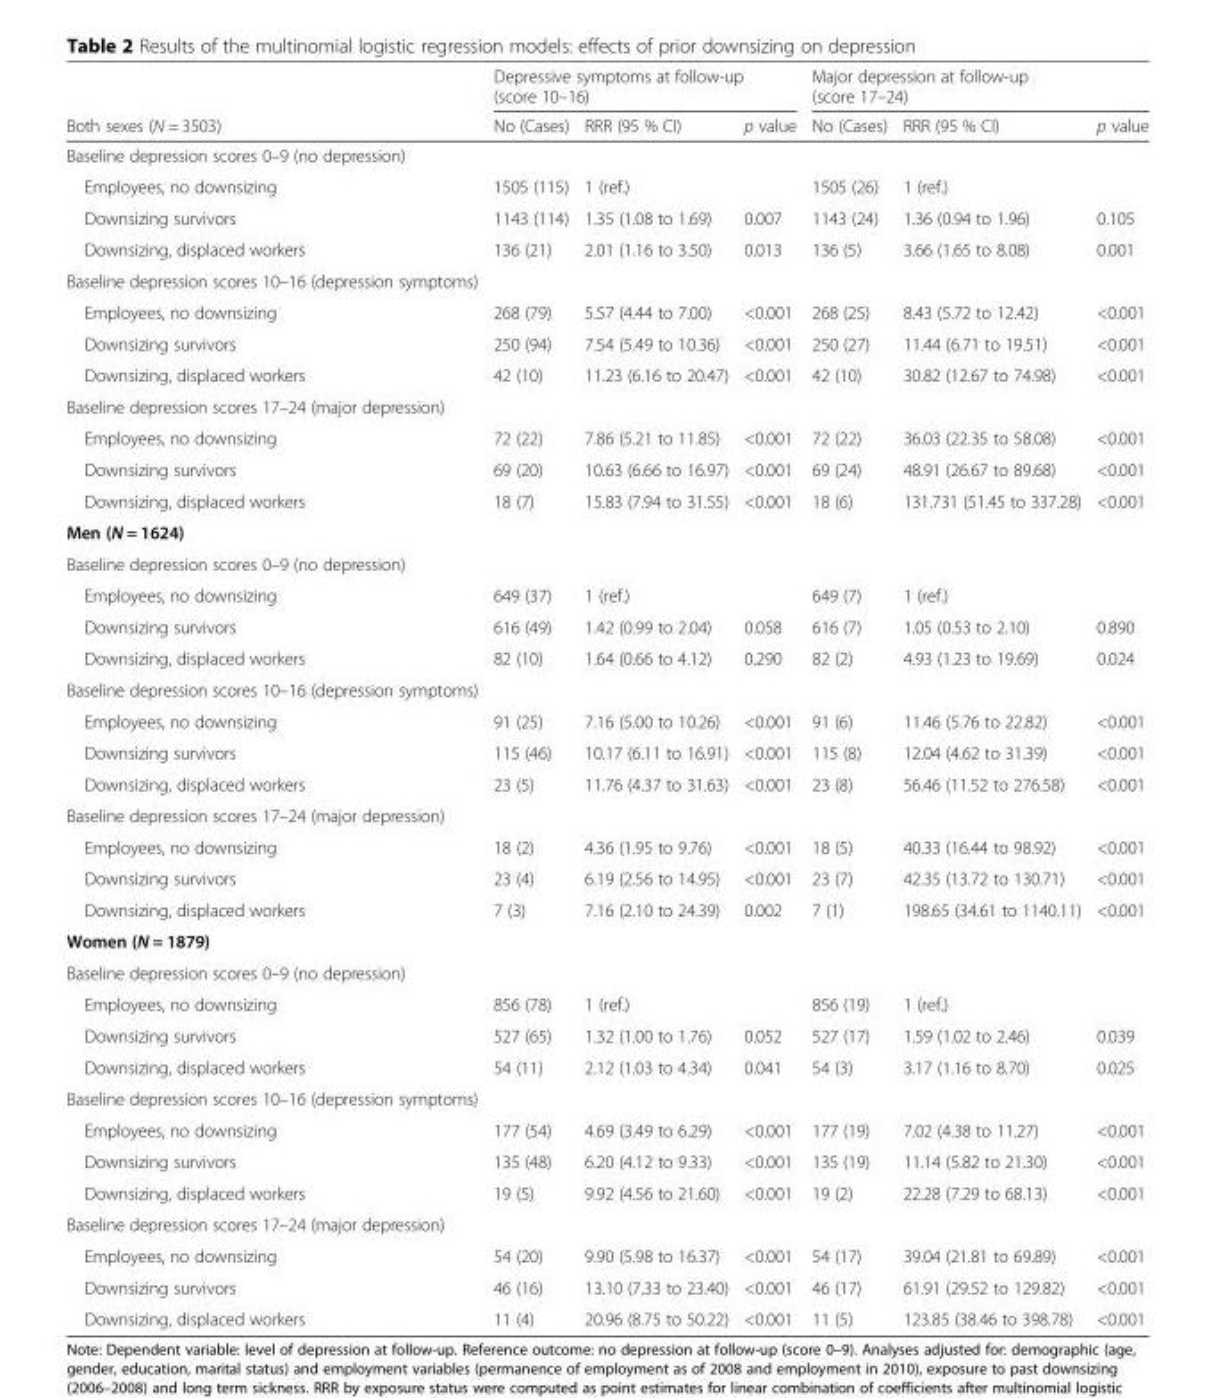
<table><thead><tr><td rowspan="2">Both sexes (N = 3503)</td><td colspan="3">Depressive symptoms at follow-up (score 10–16)</td><td colspan="3">Major depression at follow-up (score 17–24)</td></tr><tr><td>No (Cases)</td><td>RRR (95 % CI)</td><td>p value</td><td>No (Cases)</td><td>RRR (95 % CI)</td><td>p value</td></tr></thead><tbody><tr><td colspan="7">Baseline depression scores 0–9 (no depression)</td></tr><tr><td>Employees, no downsizing</td><td>1505 (115)</td><td>1 (ref.)</td><td></td><td>1505 (26)</td><td>1 (ref.)</td><td></td></tr><tr><td>Downsizing survivors</td><td>1143 (114)</td><td>1.35 (1.08 to 1.69)</td><td>0.007</td><td>1143 (24)</td><td>1.36 (0.94 to 1.96)</td><td>0.105</td></tr><tr><td>Downsizing, displaced workers</td><td>136 (21)</td><td>2.01 (1.16 to 3.50)</td><td>0.013</td><td>136 (5)</td><td>3.66 (1.65 to 8.08)</td><td>0.001</td></tr><tr><td colspan="7">Baseline depression scores 10–16 (depression symptoms)</td></tr><tr><td>Employees, no downsizing</td><td>268 (79)</td><td>5.57 (4.44 to 7.00)</td><td>&lt;0.001</td><td>268 (25)</td><td>8.43 (5.72 to 12.42)</td><td>&lt;0.001</td></tr><tr><td>Downsizing survivors</td><td>250 (94)</td><td>7.54 (5.49 to 10.36)</td><td>&lt;0.001</td><td>250 (27)</td><td>11.44 (6.71 to 19.51)</td><td>&lt;0.001</td></tr><tr><td>Downsizing, displaced workers</td><td>42 (10)</td><td>11.23 (6.16 to 20.47)</td><td>&lt;0.001</td><td>42 (10)</td><td>30.82 (12.67 to 74.98)</td><td>&lt;0.001</td></tr><tr><td colspan="7">Baseline depression scores 17–24 (major depression)</td></tr><tr><td>Employees, no downsizing</td><td>72 (22)</td><td>7.86 (5.21 to 11.85)</td><td>&lt;0.001</td><td>72 (22)</td><td>36.03 (22.35 to 58.08)</td><td>&lt;0.001</td></tr><tr><td>Downsizing survivors</td><td>69 (20)</td><td>10.63 (6.66 to 16.97)</td><td>&lt;0.001</td><td>69 (24)</td><td>48.91 (26.67 to 89.68)</td><td>&lt;0.001</td></tr><tr><td>Downsizing, displaced workers</td><td>18 (7)</td><td>15.83 (7.94 to 31.55)</td><td>&lt;0.001</td><td>18 (6)</td><td>131.731 (51.45 to 337.28)</td><td>&lt;0.001</td></tr><tr><td colspan="7">Men (N = 1624)</td></tr><tr><td colspan="7">Baseline depression scores 0–9 (no depression)</td></tr><tr><td>Employees, no downsizing</td><td>649 (37)</td><td>1 (ref.)</td><td></td><td>649 (7)</td><td>1 (ref.)</td><td></td></tr><tr><td>Downsizing survivors</td><td>616 (49)</td><td>1.42 (0.99 to 2.04)</td><td>0.058</td><td>616 (7)</td><td>1.05 (0.53 to 2.10)</td><td>0.890</td></tr><tr><td>Downsizing, displaced workers</td><td>82 (10)</td><td>1.64 (0.66 to 4.12)</td><td>0.290</td><td>82 (2)</td><td>4.93 (1.23 to 19.69)</td><td>0.024</td></tr><tr><td colspan="7">Baseline depression scores 10–16 (depression symptoms)</td></tr><tr><td>Employees, no downsizing</td><td>91 (25)</td><td>7.16 (5.00 to 10.26)</td><td>&lt;0.001</td><td>91 (6)</td><td>11.46 (5.76 to 22.82)</td><td>&lt;0.001</td></tr><tr><td>Downsizing survivors</td><td>115 (46)</td><td>10.17 (6.11 to 16.91)</td><td>&lt;0.001</td><td>115 (8)</td><td>12.04 (4.62 to 31.39)</td><td>&lt;0.001</td></tr><tr><td>Downsizing, displaced workers</td><td>23 (5)</td><td>11.76 (4.37 to 31.63)</td><td>&lt;0.001</td><td>23 (8)</td><td>56.46 (11.52 to 276.58)</td><td>&lt;0.001</td></tr><tr><td colspan="7">Baseline depression scores 17–24 (major depression)</td></tr><tr><td>Employees, no downsizing</td><td>18 (2)</td><td>4.36 (1.95 to 9.76)</td><td>&lt;0.001</td><td>18 (5)</td><td>40.33 (16.44 to 98.92)</td><td>&lt;0.001</td></tr><tr><td>Downsizing survivors</td><td>23 (4)</td><td>6.19 (2.56 to 14.95)</td><td>&lt;0.001</td><td>23 (7)</td><td>42.35 (13.72 to 130.71)</td><td>&lt;0.001</td></tr><tr><td>Downsizing, displaced workers</td><td>7 (3)</td><td>7.16 (2.10 to 24.39)</td><td>0.002</td><td>7 (1)</td><td>198.65 (34.61 to 1140.11)</td><td>&lt;0.001</td></tr><tr><td colspan="7">Women (N = 1879)</td></tr><tr><td colspan="7">Baseline depression scores 0–9 (no depression)</td></tr><tr><td>Employees, no downsizing</td><td>856 (78)</td><td>1 (ref.)</td><td></td><td>856 (19)</td><td>1 (ref.)</td><td></td></tr><tr><td>Downsizing survivors</td><td>527 (65)</td><td>1.32 (1.00 to 1.76)</td><td>0.052</td><td>527 (17)</td><td>1.59 (1.02 to 2.46)</td><td>0.039</td></tr><tr><td>Downsizing, displaced workers</td><td>54 (11)</td><td>2.12 (1.03 to 4.34)</td><td>0.041</td><td>54 (3)</td><td>3.17 (1.16 to 8.70)</td><td>0.025</td></tr><tr><td colspan="7">Baseline depression scores 10–16 (depression symptoms)</td></tr><tr><td>Employees, no downsizing</td><td>177 (54)</td><td>4.69 (3.49 to 6.29)</td><td>&lt;0.001</td><td>177 (19)</td><td>7.02 (4.38 to 11.27)</td><td>&lt;0.001</td></tr><tr><td>Downsizing survivors</td><td>135 (48)</td><td>6.20 (4.12 to 9.33)</td><td>&lt;0.001</td><td>135 (19)</td><td>11.14 (5.82 to 21.30)</td><td>&lt;0.001</td></tr><tr><td>Downsizing, displaced workers</td><td>19 (5)</td><td>9.92 (4.56 to 21.60)</td><td>&lt;0.001</td><td>19 (2)</td><td>22.28 (7.29 to 68.13)</td><td>&lt;0.001</td></tr><tr><td colspan="7">Baseline depression scores 17–24 (major depression)</td></tr><tr><td>Employees, no downsizing</td><td>54 (20)</td><td>9.90 (5.98 to 16.37)</td><td>&lt;0.001</td><td>54 (17)</td><td>39.04 (21.81 to 69.89)</td><td>&lt;0.001</td></tr><tr><td>Downsizing survivors</td><td>46 (16)</td><td>13.10 (7.33 to 23.40)</td><td>&lt;0.001</td><td>46 (17)</td><td>61.91 (29.52 to 129.82)</td><td>&lt;0.001</td></tr><tr><td>Downsizing, displaced workers</td><td>11 (4)</td><td>20.96 (8.75 to 50.22)</td><td>&lt;0.001</td><td>11 (5)</td><td>123.85 (38.46 to 398.78)</td><td>&lt;0.001</td></tr></tbody></table>